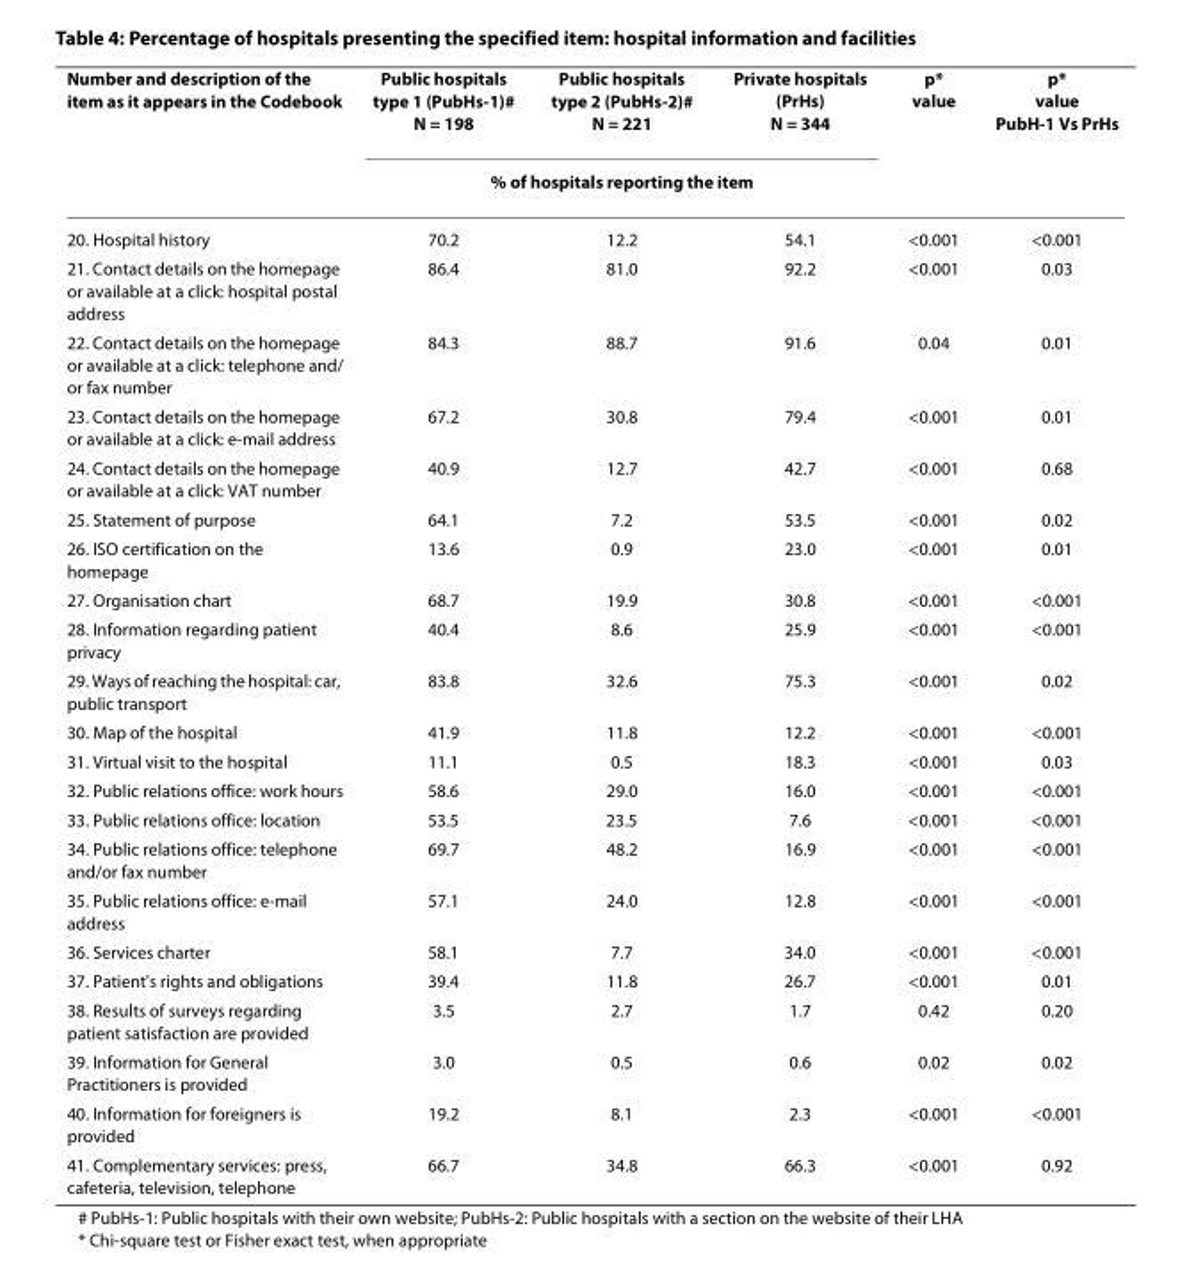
<table><thead><tr><td rowspan="2">Number and description of the item as it appears in the Codebook</td><td>Public hospitals type 1 (PubHs-1)# N = 198</td><td>Public hospitals type 2 (PubHs-2)# N = 221</td><td>Private hospitals (PrHs) N = 344</td><td rowspan="2">p* value</td><td rowspan="2">p* value PubH-1 Vs PrHs</td></tr><tr><td colspan="3">% of hospitals reporting the item</td></tr></thead><tbody><tr><td>20. Hospital history</td><td>70.2</td><td>12.2</td><td>54.1</td><td>&lt;0.001</td><td>&lt;0.001</td></tr><tr><td>21. Contact details on the homepage or available at a click: hospital postal address</td><td>86.4</td><td>81.0</td><td>92.2</td><td>&lt;0.001</td><td>0.03</td></tr><tr><td>22. Contact details on the homepage or available at a click: telephone and/ or fax number</td><td>84.3</td><td>88.7</td><td>91.6</td><td>0.04</td><td>0.01</td></tr><tr><td>23. Contact details on the homepage or available at a click: e-mail address</td><td>67.2</td><td>30.8</td><td>79.4</td><td>&lt;0.001</td><td>0.01</td></tr><tr><td>24. Contact details on the homepage or available at a click: VAT number</td><td>40.9</td><td>12.7</td><td>42.7</td><td>&lt;0.001</td><td>0.68</td></tr><tr><td>25. Statement of purpose</td><td>64.1</td><td>7.2</td><td>53.5</td><td>&lt;0.001</td><td>0.02</td></tr><tr><td>26. ISO certification on the homepage</td><td>13.6</td><td>0.9</td><td>23.0</td><td>&lt;0.001</td><td>0.01</td></tr><tr><td>27. Organisation chart</td><td>68.7</td><td>19.9</td><td>30.8</td><td>&lt;0.001</td><td>&lt;0.001</td></tr><tr><td>28. Information regarding patient privacy</td><td>40.4</td><td>8.6</td><td>25.9</td><td>&lt;0.001</td><td>&lt;0.001</td></tr><tr><td>29. Ways of reaching the hospital: car, public transport</td><td>83.8</td><td>32.6</td><td>75.3</td><td>&lt;0.001</td><td>0.02</td></tr><tr><td>30. Map of the hospital</td><td>41.9</td><td>11.8</td><td>12.2</td><td>&lt;0.001</td><td>&lt;0.001</td></tr><tr><td>31. Virtual visit to the hospital</td><td>11.1</td><td>0.5</td><td>18.3</td><td>&lt;0.001</td><td>0.03</td></tr><tr><td>32. Public relations office: work hours</td><td>58.6</td><td>29.0</td><td>16.0</td><td>&lt;0.001</td><td>&lt;0.001</td></tr><tr><td>33. Public relations office: location</td><td>53.5</td><td>23.5</td><td>7.6</td><td>&lt;0.001</td><td>&lt;0.001</td></tr><tr><td>34. Public relations office: telephone and/or fax number</td><td>69.7</td><td>48.2</td><td>16.9</td><td>&lt;0.001</td><td>&lt;0.001</td></tr><tr><td>35. Public relations office: e-mail address</td><td>57.1</td><td>24.0</td><td>12.8</td><td>&lt;0.001</td><td>&lt;0.001</td></tr><tr><td>36. Services charter</td><td>58.1</td><td>7.7</td><td>34.0</td><td>&lt;0.001</td><td>&lt;0.001</td></tr><tr><td>37. Patient&#x27;s rights and obligations</td><td>39.4</td><td>11.8</td><td>26.7</td><td>&lt;0.001</td><td>0.01</td></tr><tr><td>38. Results of surveys regarding patient satisfaction are provided</td><td>3.5</td><td>2.7</td><td>1.7</td><td>0.42</td><td>0.20</td></tr><tr><td>39. Information for General Practitioners is provided</td><td>3.0</td><td>0.5</td><td>0.6</td><td>0.02</td><td>0.02</td></tr><tr><td>40. Information for foreigners is provided</td><td>19.2</td><td>8.1</td><td>2.3</td><td>&lt;0.001</td><td>&lt;0.001</td></tr><tr><td>41. Complementary services: press, cafeteria, television, telephone</td><td>66.7</td><td>34.8</td><td>66.3</td><td>&lt;0.001</td><td>0.92</td></tr></tbody></table>